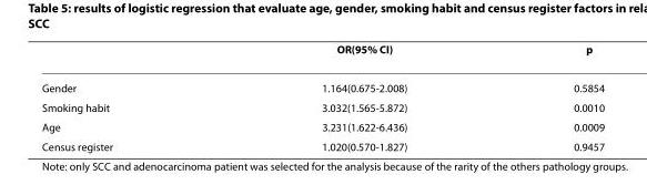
<table><thead><tr><td></td><td>OR(95% CI)</td><td>p</td></tr></thead><tbody><tr><td>Gender</td><td>1.164(0.675-2.008)</td><td>0.5854</td></tr><tr><td>Smoking habit</td><td>3.032(1.565-5.872)</td><td>0.0010</td></tr><tr><td>Age</td><td>3.231(1.622-6.436)</td><td>0.0009</td></tr><tr><td>Census register</td><td>1.020(0.570-1.827)</td><td>0.9457</td></tr></tbody></table>